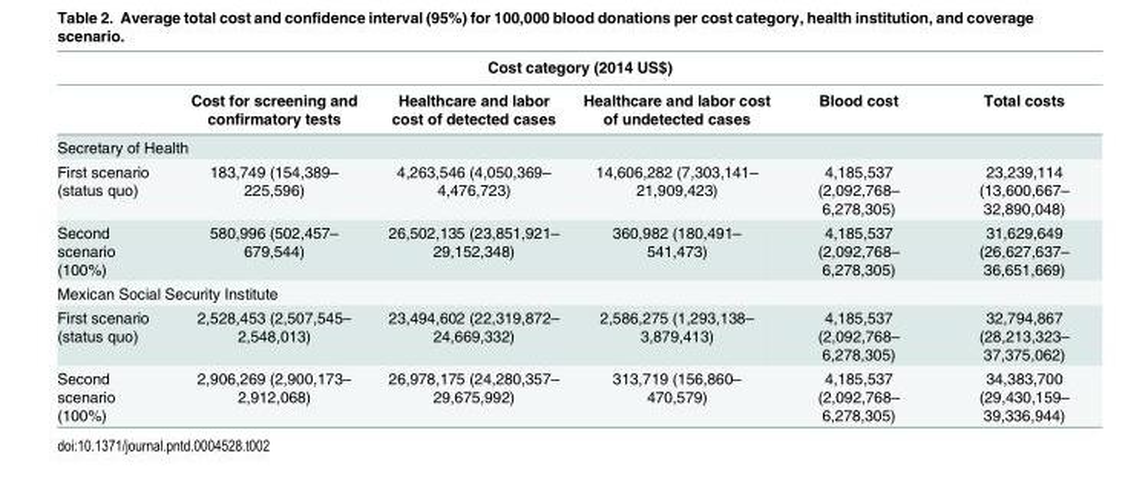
<table><thead><tr><td colspan="6">Cost category (2014 US$)</td></tr><tr><td></td><td>Cost for screening and confirmatory tests</td><td>Healthcare and labor cost of detected cases</td><td>Healthcare and labor cost of undetected cases</td><td>Blood cost</td><td>Total costs</td></tr></thead><tbody><tr><td colspan="6">Secretary of Health</td></tr><tr><td>First scenario (status quo)</td><td>183,749 (154,389– 225,596)</td><td>4,263,546 (4,050,369– 4,476,723)</td><td>14,606,282 (7,303,141– 21,909,423)</td><td>4,185,537 (2,092,768– 6,278,305)</td><td>23,239,114 (13,600,667– 32,890,048)</td></tr><tr><td>Second scenario (100%)</td><td>580,996 (502,457– 679,544)</td><td>26,502,135 (23,851,921– 29,152,348)</td><td>360,982 (180,491– 541,473)</td><td>4,185,537 (2,092,768– 6,278,305)</td><td>31,629,649 (26,627,637– 36,651,669)</td></tr><tr><td colspan="6">Mexican Social Security Institute</td></tr><tr><td>First scenario (status quo)</td><td>2,528,453 (2,507,545– 2,548,013)</td><td>23,494,602 (22,319,872– 24,669,332)</td><td>2,586,275 (1,293,138– 3,879,413)</td><td>4,185,537 (2,092,768– 6,278,305)</td><td>32,794,867 (28,213,323– 37,375,062)</td></tr><tr><td>Second scenario (100%)</td><td>2,906,269 (2,900,173– 2,912,068)</td><td>26,978,175 (24,280,357– 29,675,992)</td><td>313,719 (156,860– 470,579)</td><td>4,185,537 (2,092,768– 6,278,305)</td><td>34,383,700 (29,430,159– 39,336,944)</td></tr></tbody></table>